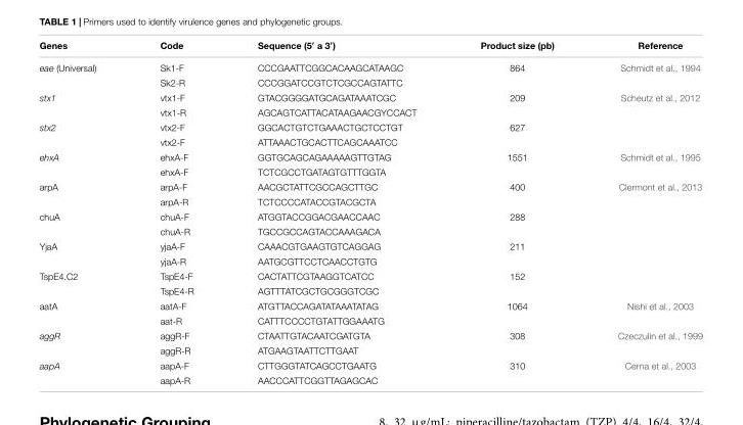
<table><thead><tr><td>Genes</td><td>Code</td><td>Sequence (5′ a 3′)</td><td>Product size (pb)</td><td>Reference</td></tr></thead><tbody><tr><td rowspan="2">eae (Universal)</td><td>Sk1-F</td><td>CCCGAATTCGGCACAAGCATAAGC</td><td>864</td><td>Schmidt et al., 1994</td></tr><tr><td>Sk2-R</td><td>CCCGGATCCGTCTCGCCAGTATTC</td><td></td><td></td></tr><tr><td rowspan="2">stx1</td><td>vtx1-F</td><td>GTACGGGGATGCAGATAAATCGC</td><td>209</td><td>Scheutz et al., 2012</td></tr><tr><td>vtx1-R</td><td>AGCAGTCATTACATAAGAACGYCCACT</td><td></td><td></td></tr><tr><td rowspan="2">stx2</td><td>vtx2-F</td><td>GGCACTGTCTGAAACTGCTCCTGT</td><td>627</td><td></td></tr><tr><td>vtx2-F</td><td>ATTAAACTGCACTTCAGCAAATCC</td><td></td><td></td></tr><tr><td rowspan="2">ehxA</td><td>ehxA-F</td><td>GGTGCAGCAGAAAAAGTTGTAG</td><td>1551</td><td>Schmidt et al., 1995</td></tr><tr><td>ehxA-F</td><td>TCTCGCCTGATAGTGTTTGGTA</td><td></td><td></td></tr><tr><td rowspan="2">arpA</td><td>arpA-F</td><td>AACGCTATTCGCCAGCTTGC</td><td>400</td><td>Clermont et al., 2013</td></tr><tr><td>arpA-R</td><td>TCTCCCCATACCGTACGCTA</td><td></td><td></td></tr><tr><td rowspan="2">chuA</td><td>chuA-F</td><td>ATGGTACCGGACGAACCAAC</td><td>288</td><td></td></tr><tr><td>chuA-R</td><td>TGCCGCCAGTACCAAAGACA</td><td></td><td></td></tr><tr><td rowspan="2">YjaA</td><td>yjaA-F</td><td>CAAACGTGAAGTGTCAGGAG</td><td>211</td><td></td></tr><tr><td>yjaA-R</td><td>AATGCGTTCCTCAACCTGTG</td><td></td><td></td></tr><tr><td rowspan="2">TspE4.C2</td><td>TspE4-F</td><td>CACTATTCGTAAGGTCATCC</td><td>152</td><td></td></tr><tr><td>TspE4-R</td><td>AGTTTATCGCTGCGGGTCGC</td><td></td><td></td></tr><tr><td rowspan="2">aatA</td><td>aatA-F</td><td>ATGTTACCAGATATAAATATAG</td><td>1064</td><td>Nishi et al., 2003</td></tr><tr><td>aat-R</td><td>CATTTCCCCTGTATTGGAAATG</td><td></td><td></td></tr><tr><td rowspan="2">aggR</td><td>aggR-F</td><td>CTAATTGTACAATCGATGTA</td><td>308</td><td>Czeczulin et al., 1999</td></tr><tr><td>aggR-R</td><td>ATGAAGTAATTCTTGAAT</td><td></td><td></td></tr><tr><td rowspan="2">aapA</td><td>aapA-F</td><td>CTTGGGTATCAGCCTGAATG</td><td>310</td><td>Cerna et al., 2003</td></tr><tr><td>aapA-R</td><td>AACCCATTCGGTTAGAGCAC</td><td></td><td></td></tr></tbody></table>